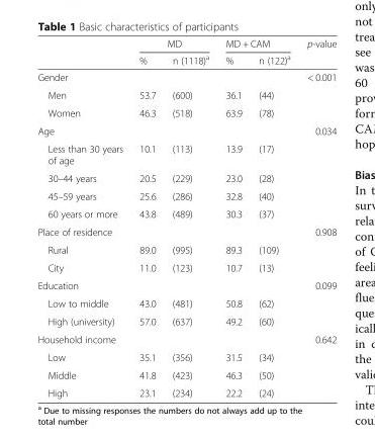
<table><thead><tr><td rowspan="2"></td><td colspan="2">MD</td><td colspan="2">MD + CAM</td><td rowspan="2">p-value</td></tr><tr><td>%</td><td>n (1118)<sup>a</sup></td><td>%</td><td>n (122)<sup>a</sup></td></tr></thead><tbody><tr><td>Gender</td><td></td><td></td><td></td><td></td><td>&lt; 0.001</td></tr><tr><td>Men</td><td>53.7</td><td>(600)</td><td>36.1</td><td>(44)</td><td></td></tr><tr><td>Women</td><td>46.3</td><td>(518)</td><td>63.9</td><td>(78)</td><td></td></tr><tr><td>Age</td><td></td><td></td><td></td><td></td><td>0.034</td></tr><tr><td>Less than 30 years of age</td><td>10.1</td><td>(113)</td><td>13.9</td><td>(17)</td><td></td></tr><tr><td>30–44 years</td><td>20.5</td><td>(229)</td><td>23.0</td><td>(28)</td><td></td></tr><tr><td>45–59 years</td><td>25.6</td><td>(286)</td><td>32.8</td><td>(40)</td><td></td></tr><tr><td>60 years or more</td><td>43.8</td><td>(489)</td><td>30.3</td><td>(37)</td><td></td></tr><tr><td>Place of residence</td><td></td><td></td><td></td><td></td><td>0.908</td></tr><tr><td>Rural</td><td>89.0</td><td>(995)</td><td>89.3</td><td>(109)</td><td></td></tr><tr><td>City</td><td>11.0</td><td>(123)</td><td>10.7</td><td>(13)</td><td></td></tr><tr><td>Education</td><td></td><td></td><td></td><td></td><td>0.099</td></tr><tr><td>Low to middle</td><td>43.0</td><td>(481)</td><td>50.8</td><td>(62)</td><td></td></tr><tr><td>High (university)</td><td>57.0</td><td>(637)</td><td>49.2</td><td>(60)</td><td></td></tr><tr><td>Household income</td><td></td><td></td><td></td><td></td><td>0.642</td></tr><tr><td>Low</td><td>35.1</td><td>(356)</td><td>31.5</td><td>(34)</td><td></td></tr><tr><td>Middle</td><td>41.8</td><td>(423)</td><td>46.3</td><td>(50)</td><td></td></tr><tr><td>High</td><td>23.1</td><td>(234)</td><td>22.2</td><td>(24)</td><td></td></tr></tbody></table>